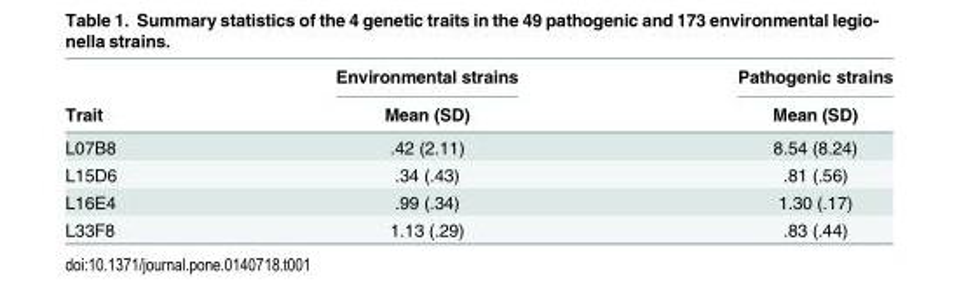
<table><thead><tr><td rowspan="2">Trait</td><td rowspan="2">Environmental strains Mean (SD)</td><td rowspan="2">Pathogenic strains Mean (SD)</td></tr><tr></tr></thead><tbody><tr><td>L07B8</td><td>.42 (2.11)</td><td>8.54 (8.24)</td></tr><tr><td>L15D6</td><td>.34 (.43)</td><td>.81 (.56)</td></tr><tr><td>L16E4</td><td>.99 (.34)</td><td>1.30 (.17)</td></tr><tr><td>L33F8</td><td>1.13 (.29)</td><td>.83 (.44)</td></tr></tbody></table>